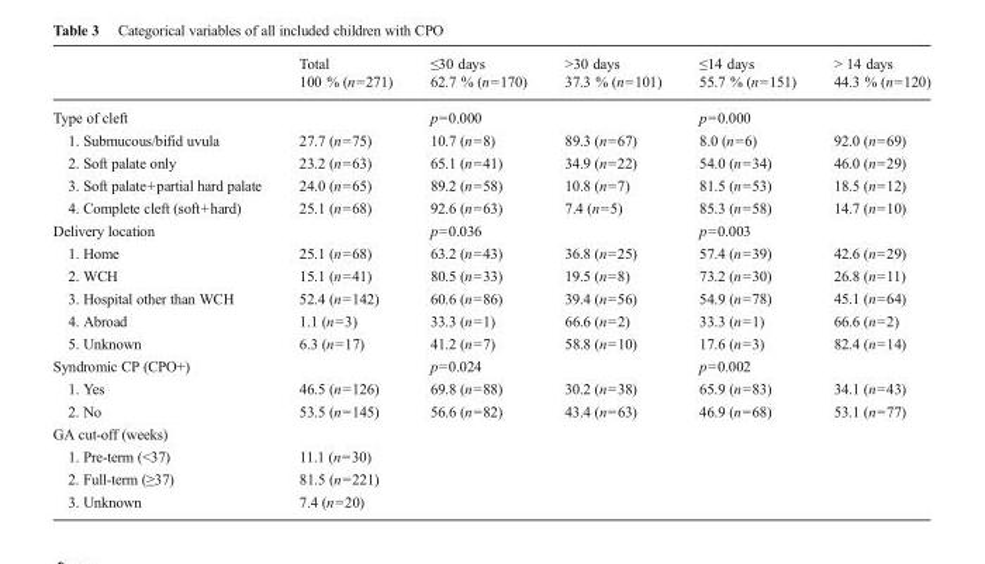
<table><thead><tr><td rowspan="2"></td><td rowspan="2">Total 100 % (n=271)</td><td rowspan="2">≤30 days 62.7 % (n=170)</td><td rowspan="2">&gt;30 days 37.3 % (n=101)</td><td rowspan="2">≤14 days 55.7 % (n=151)</td><td rowspan="2">&gt; 14 days 44.3 % (n=120)</td></tr><tr></tr></thead><tbody><tr><td>Type of cleft</td><td></td><td colspan="2">p=0.000</td><td colspan="2">p=0.000</td></tr><tr><td>1. Submucous/bifid uvula</td><td>27.7 (n=75)</td><td>10.7 (n=8)</td><td>89.3 (n=67)</td><td>8.0 (n=6)</td><td>92.0 (n=69)</td></tr><tr><td>2. Soft palate only</td><td>23.2 (n=63)</td><td>65.1 (n=41)</td><td>34.9 (n=22)</td><td>54.0 (n=34)</td><td>46.0 (n=29)</td></tr><tr><td>3. Soft palate+partial hard palate</td><td>24.0 (n=65)</td><td>89.2 (n=58)</td><td>10.8 (n=7)</td><td>81.5 (n=53)</td><td>18.5 (n=12)</td></tr><tr><td>4. Complete cleft (soft+hard)</td><td>25.1 (n=68)</td><td>92.6 (n=63)</td><td>7.4 (n=5)</td><td>85.3 (n=58)</td><td>14.7 (n=10)</td></tr><tr><td>Delivery location</td><td></td><td colspan="2">p=0.036</td><td colspan="2">p=0.003</td></tr><tr><td>1. Home</td><td>25.1 (n=68)</td><td>63.2 (n=43)</td><td>36.8 (n=25)</td><td>57.4 (n=39)</td><td>42.6 (n=29)</td></tr><tr><td>2. WCH</td><td>15.1 (n=41)</td><td>80.5 (n=33)</td><td>19.5 (n=8)</td><td>73.2 (n=30)</td><td>26.8 (n=11)</td></tr><tr><td>3. Hospital other than WCH</td><td>52.4 (n=142)</td><td>60.6 (n=86)</td><td>39.4 (n=56)</td><td>54.9 (n=78)</td><td>45.1 (n=64)</td></tr><tr><td>4. Abroad</td><td>1.1 (n=3)</td><td>33.3 (n=1)</td><td>66.6 (n=2)</td><td>33.3 (n=1)</td><td>66.6 (n=2)</td></tr><tr><td>5. Unknown</td><td>6.3 (n=17)</td><td>41.2 (n=7)</td><td>58.8 (n=10)</td><td>17.6 (n=3)</td><td>82.4 (n=14)</td></tr><tr><td>Syndromic CP (CPO+)</td><td></td><td colspan="2">p=0.024</td><td colspan="2">p=0.002</td></tr><tr><td>1. Yes</td><td>46.5 (n=126)</td><td>69.8 (n=88)</td><td>30.2 (n=38)</td><td>65.9 (n=83)</td><td>34.1 (n=43)</td></tr><tr><td>2. No</td><td>53.5 (n=145)</td><td>56.6 (n=82)</td><td>43.4 (n=63)</td><td>46.9 (n=68)</td><td>53.1 (n=77)</td></tr><tr><td colspan="6">GA cut-off (weeks)</td></tr><tr><td>1. Pre-term (&lt;37)</td><td>11.1 (n=30)</td><td></td><td></td><td></td><td></td></tr><tr><td>2. Full-term (≥37)</td><td>81.5 (n=221)</td><td></td><td></td><td></td><td></td></tr><tr><td>3. Unknown</td><td>7.4 (n=20)</td><td></td><td></td><td></td><td></td></tr></tbody></table>